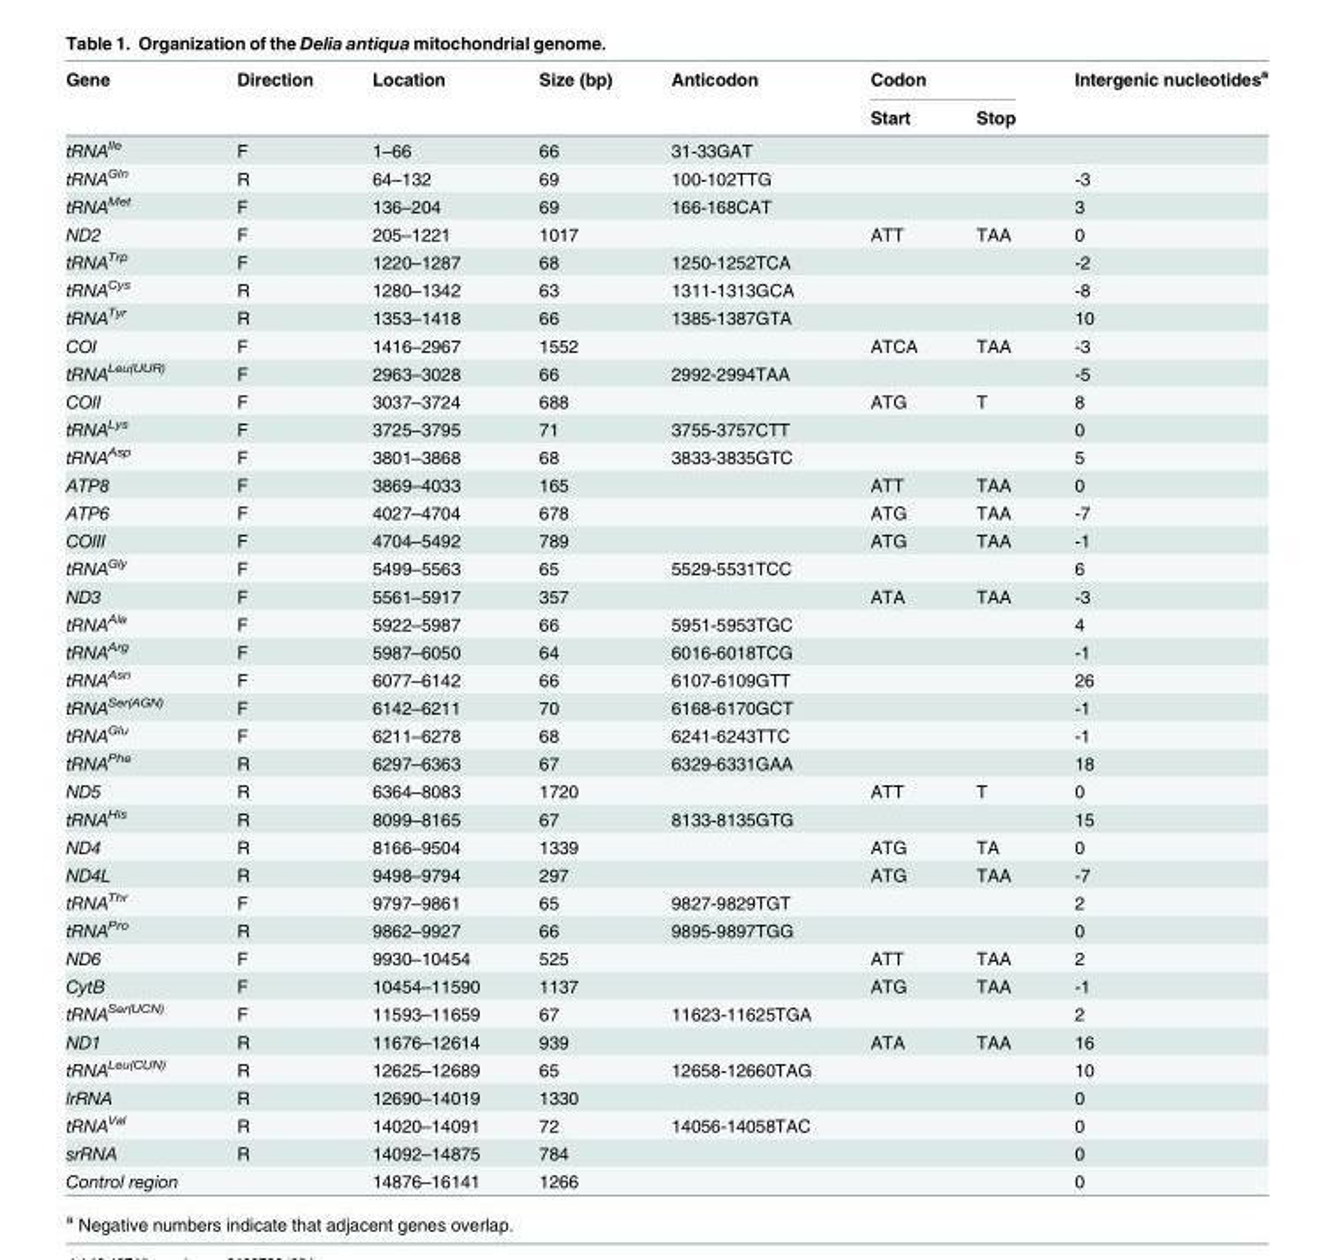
<table><thead><tr><td rowspan="2">Gene</td><td rowspan="2">Direction</td><td rowspan="2">Location</td><td rowspan="2">Size (bp)</td><td rowspan="2">Anticodon</td><td colspan="2">Codon</td><td rowspan="2">Intergenic nucleotides<sup>a</sup></td></tr><tr><td>Start</td><td>Stop</td></tr></thead><tbody><tr><td>tRNA<sup>Ile</sup></td><td>F</td><td>1–66</td><td>66</td><td>31-33GAT</td><td></td><td></td><td></td></tr><tr><td>tRNA<sup>Gln</sup></td><td>R</td><td>64–132</td><td>69</td><td>100-102TTG</td><td></td><td></td><td>-3</td></tr><tr><td>tRNA<sup>Met</sup></td><td>F</td><td>136–204</td><td>69</td><td>166-168CAT</td><td></td><td></td><td>3</td></tr><tr><td>ND2</td><td>F</td><td>205–1221</td><td>1017</td><td></td><td>ATT</td><td>TAA</td><td>0</td></tr><tr><td>tRNA<sup>Trp</sup></td><td>F</td><td>1220–1287</td><td>68</td><td>1250-1252TCA</td><td></td><td></td><td>-2</td></tr><tr><td>tRNA<sup>Cys</sup></td><td>R</td><td>1280–1342</td><td>63</td><td>1311-1313GCA</td><td></td><td></td><td>-8</td></tr><tr><td>tRNA<sup>Tyr</sup></td><td>R</td><td>1353–1418</td><td>66</td><td>1385-1387GTA</td><td></td><td></td><td>10</td></tr><tr><td>COI</td><td>F</td><td>1416–2967</td><td>1552</td><td></td><td>ATCA</td><td>TAA</td><td>-3</td></tr><tr><td>tRNA<sup>Leu(UUR)</sup></td><td>F</td><td>2963–3028</td><td>66</td><td>2992-2994TAA</td><td></td><td></td><td>-5</td></tr><tr><td>COII</td><td>F</td><td>3037–3724</td><td>688</td><td></td><td>ATG</td><td>T</td><td>8</td></tr><tr><td>tRNA<sup>Lys</sup></td><td>F</td><td>3725–3795</td><td>71</td><td>3755-3757CTT</td><td></td><td></td><td>0</td></tr><tr><td>tRNA<sup>Asp</sup></td><td>F</td><td>3801–3868</td><td>68</td><td>3833-3835GTC</td><td></td><td></td><td>5</td></tr><tr><td>ATP8</td><td>F</td><td>3869–4033</td><td>165</td><td></td><td>ATT</td><td>TAA</td><td>0</td></tr><tr><td>ATP6</td><td>F</td><td>4027–4704</td><td>678</td><td></td><td>ATG</td><td>TAA</td><td>-7</td></tr><tr><td>COIII</td><td>F</td><td>4704–5492</td><td>789</td><td></td><td>ATG</td><td>TAA</td><td>-1</td></tr><tr><td>tRNA<sup>Gly</sup></td><td>F</td><td>5499–5563</td><td>65</td><td>5529-5531TCC</td><td></td><td></td><td>6</td></tr><tr><td>ND3</td><td>F</td><td>5561–5917</td><td>357</td><td></td><td>ATA</td><td>TAA</td><td>-3</td></tr><tr><td>tRNA<sup>Ala</sup></td><td>F</td><td>5922–5987</td><td>66</td><td>5951-5953TGC</td><td></td><td></td><td>4</td></tr><tr><td>tRNA<sup>Arg</sup></td><td>F</td><td>5987–6050</td><td>64</td><td>6016-6018TCG</td><td></td><td></td><td>-1</td></tr><tr><td>tRNA<sup>Asn</sup></td><td>F</td><td>6077–6142</td><td>66</td><td>6107-6109GTT</td><td></td><td></td><td>26</td></tr><tr><td>tRNA<sup>Ser(AGN)</sup></td><td>F</td><td>6142–6211</td><td>70</td><td>6168-6170GCT</td><td></td><td></td><td>-1</td></tr><tr><td>tRNA<sup>Glu</sup></td><td>F</td><td>6211–6278</td><td>68</td><td>6241-6243TTC</td><td></td><td></td><td>-1</td></tr><tr><td>tRNA<sup>Phe</sup></td><td>R</td><td>6297–6363</td><td>67</td><td>6329-6331GAA</td><td></td><td></td><td>18</td></tr><tr><td>ND5</td><td>R</td><td>6364–8083</td><td>1720</td><td></td><td>ATT</td><td>T</td><td>0</td></tr><tr><td>tRNA<sup>His</sup></td><td>R</td><td>8099–8165</td><td>67</td><td>8133-8135GTG</td><td></td><td></td><td>15</td></tr><tr><td>ND4</td><td>R</td><td>8166–9504</td><td>1339</td><td></td><td>ATG</td><td>TA</td><td>0</td></tr><tr><td>ND4L</td><td>R</td><td>9498–9794</td><td>297</td><td></td><td>ATG</td><td>TAA</td><td>-7</td></tr><tr><td>tRNA<sup>Thr</sup></td><td>F</td><td>9797–9861</td><td>65</td><td>9827-9829TGT</td><td></td><td></td><td>2</td></tr><tr><td>tRNA<sup>Pro</sup></td><td>R</td><td>9862–9927</td><td>66</td><td>9895-9897TGG</td><td></td><td></td><td>0</td></tr><tr><td>ND6</td><td>F</td><td>9930–10454</td><td>525</td><td></td><td>ATT</td><td>TAA</td><td>2</td></tr><tr><td>CytB</td><td>F</td><td>10454–11590</td><td>1137</td><td></td><td>ATG</td><td>TAA</td><td>-1</td></tr><tr><td>tRNA<sup>Ser(UCN)</sup></td><td>F</td><td>11593–11659</td><td>67</td><td>11623-11625TGA</td><td></td><td></td><td>2</td></tr><tr><td>ND1</td><td>R</td><td>11676–12614</td><td>939</td><td></td><td>ATA</td><td>TAA</td><td>16</td></tr><tr><td>tRNA<sup>Leu(CUN)</sup></td><td>R</td><td>12625–12689</td><td>65</td><td>12658-12660TAG</td><td></td><td></td><td>10</td></tr><tr><td>lrRNA</td><td>R</td><td>12690–14019</td><td>1330</td><td></td><td></td><td></td><td>0</td></tr><tr><td>tRNA<sup>Val</sup></td><td>R</td><td>14020–14091</td><td>72</td><td>14056-14058TAC</td><td></td><td></td><td>0</td></tr><tr><td>srRNA</td><td>R</td><td>14092–14875</td><td>784</td><td></td><td></td><td></td><td>0</td></tr><tr><td>Control region</td><td></td><td>14876–16141</td><td>1266</td><td></td><td></td><td></td><td>0</td></tr></tbody></table>